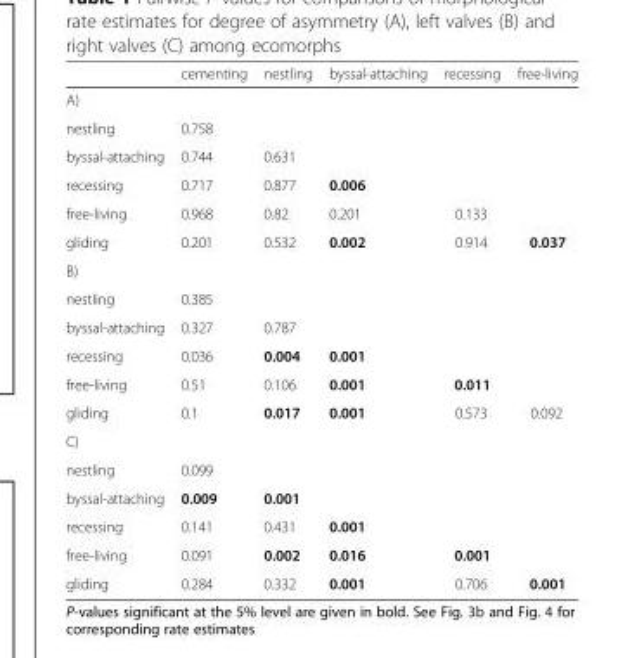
<table><thead><tr><td></td><td>cementing</td><td>nestling</td><td>byssal-attaching</td><td>recessing</td><td>free-living</td></tr></thead><tbody><tr><td colspan="6">A)</td></tr><tr><td>nestling</td><td>0.758</td><td></td><td></td><td></td><td></td></tr><tr><td>byssal-attaching</td><td>0.744</td><td>0.631</td><td></td><td></td><td></td></tr><tr><td>recessing</td><td>0.717</td><td>0.877</td><td>0.006</td><td></td><td></td></tr><tr><td>free-living</td><td>0.968</td><td>0.82</td><td>0.201</td><td>0.133</td><td></td></tr><tr><td>gliding</td><td>0.201</td><td>0.532</td><td>0.002</td><td>0.914</td><td>0.037</td></tr><tr><td colspan="6">B)</td></tr><tr><td>nestling</td><td>0.385</td><td></td><td></td><td></td><td></td></tr><tr><td>byssal-attaching</td><td>0.327</td><td>0.787</td><td></td><td></td><td></td></tr><tr><td>recessing</td><td>0.036</td><td>0.004</td><td>0.001</td><td></td><td></td></tr><tr><td>free-living</td><td>0.51</td><td>0.106</td><td>0.001</td><td>0.011</td><td></td></tr><tr><td>gliding</td><td>0.1</td><td>0.017</td><td>0.001</td><td>0.573</td><td>0.092</td></tr><tr><td colspan="6">C)</td></tr><tr><td>nestling</td><td>0.099</td><td></td><td></td><td></td><td></td></tr><tr><td>byssal-attaching</td><td>0.009</td><td>0.001</td><td></td><td></td><td></td></tr><tr><td>recessing</td><td>0.141</td><td>0.431</td><td>0.001</td><td></td><td></td></tr><tr><td>free-living</td><td>0.091</td><td>0.002</td><td>0.016</td><td>0.001</td><td></td></tr><tr><td>gliding</td><td>0.284</td><td>0.332</td><td>0.001</td><td>0.706</td><td>0.001</td></tr></tbody></table>